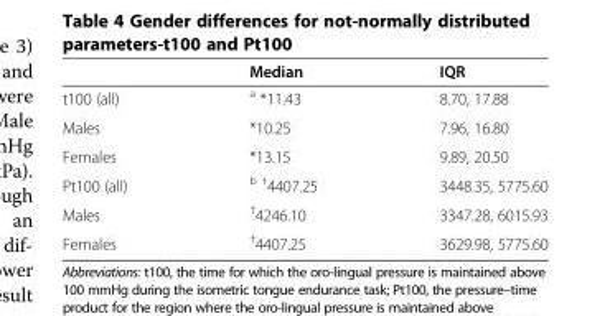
<table><thead><tr><td></td><td>Median</td><td>IQR</td></tr></thead><tbody><tr><td>t100 (all)</td><td><sup>a</sup> *11.43</td><td>8.70, 17.88</td></tr><tr><td>Males</td><td>*10.25</td><td>7.96, 16.80</td></tr><tr><td>Females</td><td>*13.15</td><td>9.89, 20.50</td></tr><tr><td>Pt100 (all)</td><td><sup>b †</sup>4407.25</td><td>3448.35, 5775.60</td></tr><tr><td>Males</td><td><sup>†</sup>4246.10</td><td>3347.28, 6015.93</td></tr><tr><td>Females</td><td><sup>†</sup>4407.25</td><td>3629.98, 5775.60</td></tr></tbody></table>